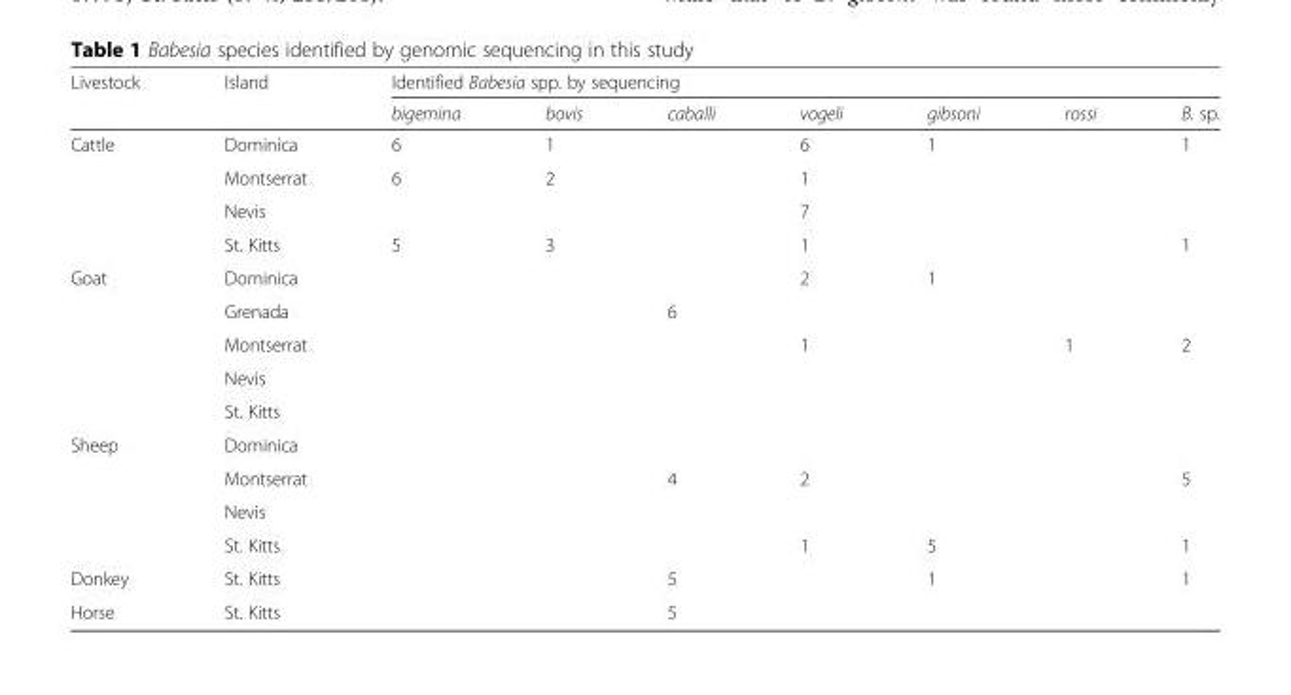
<table><thead><tr><td rowspan="2">Livestock</td><td rowspan="2">Island</td><td colspan="7">Identified Babesia spp. by sequencing</td></tr><tr><td>bigemina</td><td>bovis</td><td>caballi</td><td>vogeli</td><td>gibsoni</td><td>rossi</td><td>B. sp.</td></tr></thead><tbody><tr><td rowspan="4">Cattle</td><td>Dominica</td><td>6</td><td>1</td><td></td><td>6</td><td>1</td><td></td><td>1</td></tr><tr><td>Montserrat</td><td>6</td><td>2</td><td></td><td>1</td><td></td><td></td><td></td></tr><tr><td>Nevis</td><td></td><td></td><td></td><td>7</td><td></td><td></td><td></td></tr><tr><td>St. Kitts</td><td>5</td><td>3</td><td></td><td>1</td><td></td><td></td><td>1</td></tr><tr><td rowspan="5">Goat</td><td>Dominica</td><td></td><td></td><td></td><td>2</td><td>1</td><td></td><td></td></tr><tr><td>Grenada</td><td></td><td></td><td>6</td><td></td><td></td><td></td><td></td></tr><tr><td>Montserrat</td><td></td><td></td><td></td><td>1</td><td></td><td>1</td><td>2</td></tr><tr><td>Nevis</td><td></td><td></td><td></td><td></td><td></td><td></td><td></td></tr><tr><td>St. Kitts</td><td></td><td></td><td></td><td></td><td></td><td></td><td></td></tr><tr><td rowspan="4">Sheep</td><td>Dominica</td><td></td><td></td><td></td><td></td><td></td><td></td><td></td></tr><tr><td>Montserrat</td><td></td><td></td><td>4</td><td>2</td><td></td><td></td><td>5</td></tr><tr><td>Nevis</td><td></td><td></td><td></td><td></td><td></td><td></td><td></td></tr><tr><td>St. Kitts</td><td></td><td></td><td></td><td>1</td><td>5</td><td></td><td>1</td></tr><tr><td>Donkey</td><td>St. Kitts</td><td></td><td></td><td>5</td><td></td><td>1</td><td></td><td>1</td></tr><tr><td>Horse</td><td>St. Kitts</td><td></td><td></td><td>5</td><td></td><td></td><td></td><td></td></tr></tbody></table>